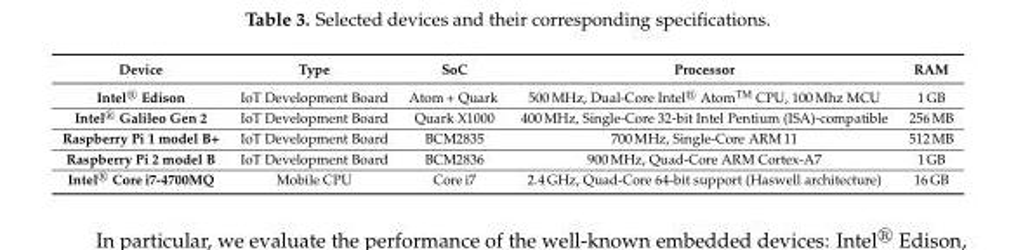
<table><thead><tr><td>Device</td><td>Type</td><td>SoC</td><td>Processor</td><td>RAM</td></tr></thead><tbody><tr><td>Intel<sup>®</sup> Edison</td><td>IoT Development Board</td><td>Atom + Quark</td><td>500 MHz, Dual-Core Intel<sup>®</sup> AtomTM CPU, 100 Mhz MCU</td><td>1 GB</td></tr><tr><td>Intel<sup>®</sup> Galileo Gen 2</td><td>IoT Development Board</td><td>Quark X1000</td><td>400 MHz, Single-Core 32-bit Intel Pentium (ISA)-compatible</td><td>256 MB</td></tr><tr><td>Raspberry Pi 1 model B+</td><td>IoT Development Board</td><td>BCM2835</td><td>700 MHz, Single-Core ARM 11</td><td>512 MB</td></tr><tr><td>Raspberry Pi 2 model B</td><td>IoT Development Board</td><td>BCM2836</td><td>900 MHz, Quad-Core ARM Cortex-A7</td><td>1 GB</td></tr><tr><td>Intel<sup>®</sup> Core i7-4700MQ</td><td>Mobile CPU</td><td>Core i7</td><td>2.4 GHz, Quad-Core 64-bit support (Haswell architecture)</td><td>16 GB</td></tr></tbody></table>